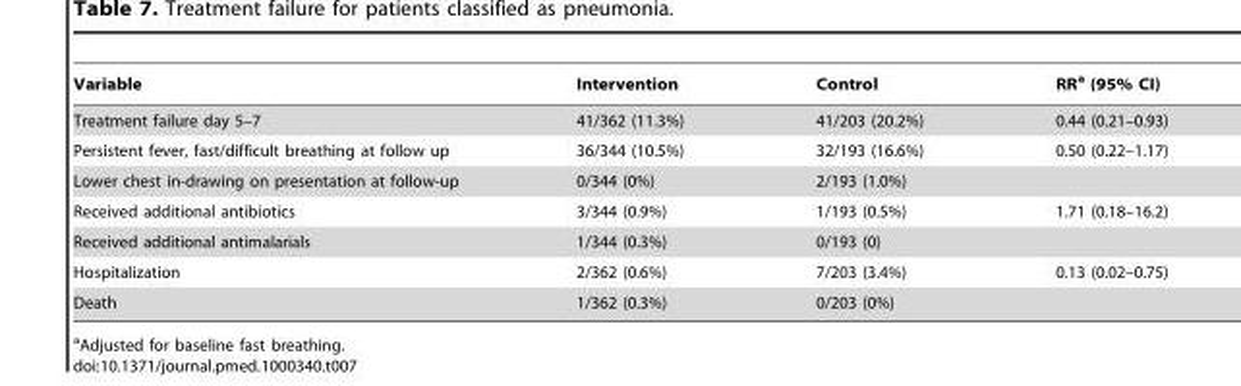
<table><thead><tr><td>Variable</td><td>Intervention</td><td>Control</td><td>RR<sup>a</sup> (95% CI)</td></tr></thead><tbody><tr><td>Treatment failure day 5–7</td><td>41/362 (11.3%)</td><td>41/203 (20.2%)</td><td>0.44 (0.21–0.93)</td></tr><tr><td>Persistent fever, fast/difficult breathing at follow up</td><td>36/344 (10.5%)</td><td>32/193 (16.6%)</td><td>0.50 (0.22–1.17)</td></tr><tr><td>Lower chest in-drawing on presentation at follow-up</td><td>0/344 (0%)</td><td>2/193 (1.0%)</td><td></td></tr><tr><td>Received additional antibiotics</td><td>3/344 (0.9%)</td><td>1/193 (0.5%)</td><td>1.71 (0.18–16.2)</td></tr><tr><td>Received additional antimalarials</td><td>1/344 (0.3%)</td><td>0/193 (0)</td><td></td></tr><tr><td>Hospitalization</td><td>2/362 (0.6%)</td><td>7/203 (3.4%)</td><td>0.13 (0.02–0.75)</td></tr><tr><td>Death</td><td>1/362 (0.3%)</td><td>0/203 (0%)</td><td></td></tr></tbody></table>